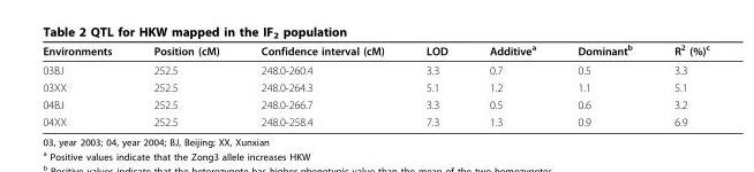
<table><thead><tr><td>Environments</td><td>Position (cM)</td><td>Confidence interval (cM)</td><td>LOD</td><td>Additive<sup>a</sup></td><td>Dominant<sup>b</sup></td><td>R<sup>2</sup> (%)<sup>c</sup></td></tr></thead><tbody><tr><td>03BJ</td><td>252.5</td><td>248.0-260.4</td><td>3.3</td><td>0.7</td><td>0.5</td><td>3.3</td></tr><tr><td>03XX</td><td>252.5</td><td>248.0-264.3</td><td>5.1</td><td>1.2</td><td>1.1</td><td>5.1</td></tr><tr><td>04BJ</td><td>252.5</td><td>248.0-266.7</td><td>3.3</td><td>0.5</td><td>0.6</td><td>3.2</td></tr><tr><td>04XX</td><td>252.5</td><td>248.0-258.4</td><td>7.3</td><td>1.3</td><td>0.9</td><td>6.9</td></tr></tbody></table>